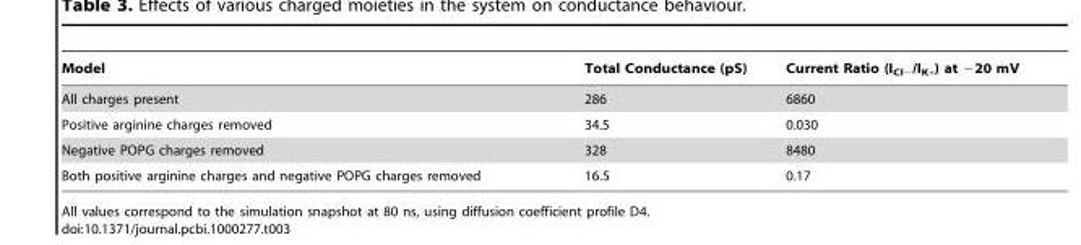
<table><thead><tr><td>Model</td><td>Total Conductance (pS)</td><td>Current Ratio (I<sub>Cl−</sub>/I<sub>K+</sub>) at −20 mV</td></tr></thead><tbody><tr><td>All charges present</td><td>286</td><td>6860</td></tr><tr><td>Positive arginine charges removed</td><td>34.5</td><td>0.030</td></tr><tr><td>Negative POPG charges removed</td><td>328</td><td>8480</td></tr><tr><td>Both positive arginine charges and negative POPG charges removed</td><td>16.5</td><td>0.17</td></tr></tbody></table>